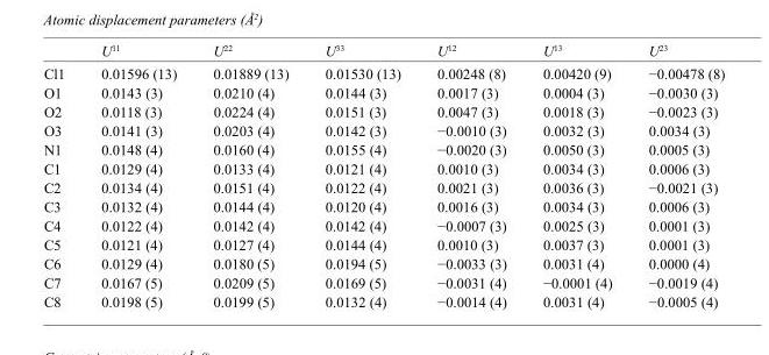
<table><thead><tr><td></td><td>U<sup>11</sup></td><td>U<sup>22</sup></td><td>U<sup>33</sup></td><td>U<sup>12</sup></td><td>U<sup>13</sup></td><td>U<sup>23</sup></td></tr></thead><tbody><tr><td>Cl1</td><td>0.01596 (13)</td><td>0.01889 (13)</td><td>0.01530 (13)</td><td>0.00248 (8)</td><td>0.00420 (9)</td><td>−0.00478 (8)</td></tr><tr><td>O1</td><td>0.0143 (3)</td><td>0.0210 (4)</td><td>0.0144 (3)</td><td>0.0017 (3)</td><td>0.0004 (3)</td><td>−0.0030 (3)</td></tr><tr><td>O2</td><td>0.0118 (3)</td><td>0.0224 (4)</td><td>0.0151 (3)</td><td>0.0047 (3)</td><td>0.0018 (3)</td><td>−0.0023 (3)</td></tr><tr><td>O3</td><td>0.0141 (3)</td><td>0.0203 (4)</td><td>0.0142 (3)</td><td>−0.0010 (3)</td><td>0.0032 (3)</td><td>0.0034 (3)</td></tr><tr><td>N1</td><td>0.0148 (4)</td><td>0.0160 (4)</td><td>0.0155 (4)</td><td>−0.0020 (3)</td><td>0.0050 (3)</td><td>0.0005 (3)</td></tr><tr><td>C1</td><td>0.0129 (4)</td><td>0.0133 (4)</td><td>0.0121 (4)</td><td>0.0010 (3)</td><td>0.0034 (3)</td><td>0.0006 (3)</td></tr><tr><td>C2</td><td>0.0134 (4)</td><td>0.0151 (4)</td><td>0.0122 (4)</td><td>0.0021 (3)</td><td>0.0036 (3)</td><td>−0.0021 (3)</td></tr><tr><td>C3</td><td>0.0132 (4)</td><td>0.0144 (4)</td><td>0.0120 (4)</td><td>0.0016 (3)</td><td>0.0034 (3)</td><td>0.0006 (3)</td></tr><tr><td>C4</td><td>0.0122 (4)</td><td>0.0142 (4)</td><td>0.0142 (4)</td><td>−0.0007 (3)</td><td>0.0025 (3)</td><td>0.0001 (3)</td></tr><tr><td>C5</td><td>0.0121 (4)</td><td>0.0127 (4)</td><td>0.0144 (4)</td><td>0.0010 (3)</td><td>0.0037 (3)</td><td>0.0001 (3)</td></tr><tr><td>C6</td><td>0.0129 (4)</td><td>0.0180 (5)</td><td>0.0194 (5)</td><td>−0.0033 (3)</td><td>0.0031 (4)</td><td>0.0000 (4)</td></tr><tr><td>C7</td><td>0.0167 (5)</td><td>0.0209 (5)</td><td>0.0169 (5)</td><td>−0.0031 (4)</td><td>−0.0001 (4)</td><td>−0.0019 (4)</td></tr><tr><td>C8</td><td>0.0198 (5)</td><td>0.0199 (5)</td><td>0.0132 (4)</td><td>−0.0014 (4)</td><td>0.0031 (4)</td><td>−0.0005 (4)</td></tr></tbody></table>